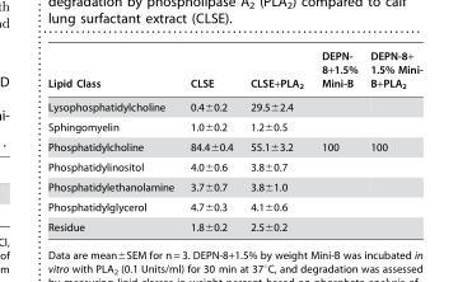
<table><thead><tr><td>Lipid Class</td><td>CLSE</td><td>CLSE+PLA<sub>2</sub></td><td>DEPN- 8+1.5% Mini-B</td><td>DEPN-8+ 1.5% Mini- B+PLA<sub>2</sub></td></tr></thead><tbody><tr><td>Lysophosphatidylcholine</td><td>0.4±0.2</td><td>29.5±2.4</td><td></td><td></td></tr><tr><td>Sphingomyelin</td><td>1.0±0.2</td><td>1.2±0.5</td><td></td><td></td></tr><tr><td>Phosphatidylcholine</td><td>84.4±0.4</td><td>55.1±3.2</td><td>100</td><td>100</td></tr><tr><td>Phosphatidylinositol</td><td>4.0±0.6</td><td>3.8±0.7</td><td></td><td></td></tr><tr><td>Phosphatidylethanolamine</td><td>3.7±0.7</td><td>3.8±1.0</td><td></td><td></td></tr><tr><td>Phosphatidylglycerol</td><td>4.7±0.3</td><td>4.1±0.6</td><td></td><td></td></tr><tr><td>Residue</td><td>1.8±0.2</td><td>2.5±0.2</td><td></td><td></td></tr></tbody></table>